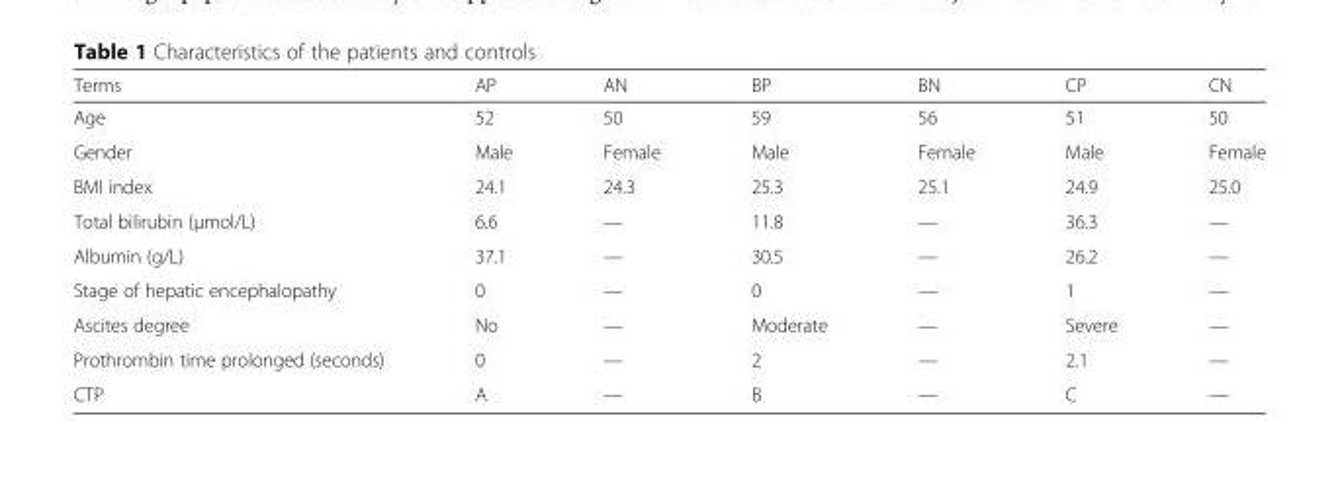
<table><thead><tr><td>Terms</td><td>AP</td><td>AN</td><td>BP</td><td>BN</td><td>CP</td><td>CN</td></tr></thead><tbody><tr><td>Age</td><td>52</td><td>50</td><td>59</td><td>56</td><td>51</td><td>50</td></tr><tr><td>Gender</td><td>Male</td><td>Female</td><td>Male</td><td>Female</td><td>Male</td><td>Female</td></tr><tr><td>BMI index</td><td>24.1</td><td>24.3</td><td>25.3</td><td>25.1</td><td>24.9</td><td>25.0</td></tr><tr><td>Total bilirubin (μmol/L)</td><td>6.6</td><td>—</td><td>11.8</td><td>—</td><td>36.3</td><td>—</td></tr><tr><td>Albumin (g/L)</td><td>37.1</td><td>—</td><td>30.5</td><td>—</td><td>26.2</td><td>—</td></tr><tr><td>Stage of hepatic encephalopathy</td><td>0</td><td>—</td><td>0</td><td>—</td><td>1</td><td>—</td></tr><tr><td>Ascites degree</td><td>No</td><td>—</td><td>Moderate</td><td>—</td><td>Severe</td><td>—</td></tr><tr><td>Prothrombin time prolonged (seconds)</td><td>0</td><td>—</td><td>2</td><td>—</td><td>2.1</td><td>—</td></tr><tr><td>CTP</td><td>A</td><td>—</td><td>B</td><td>—</td><td>C</td><td>—</td></tr></tbody></table>